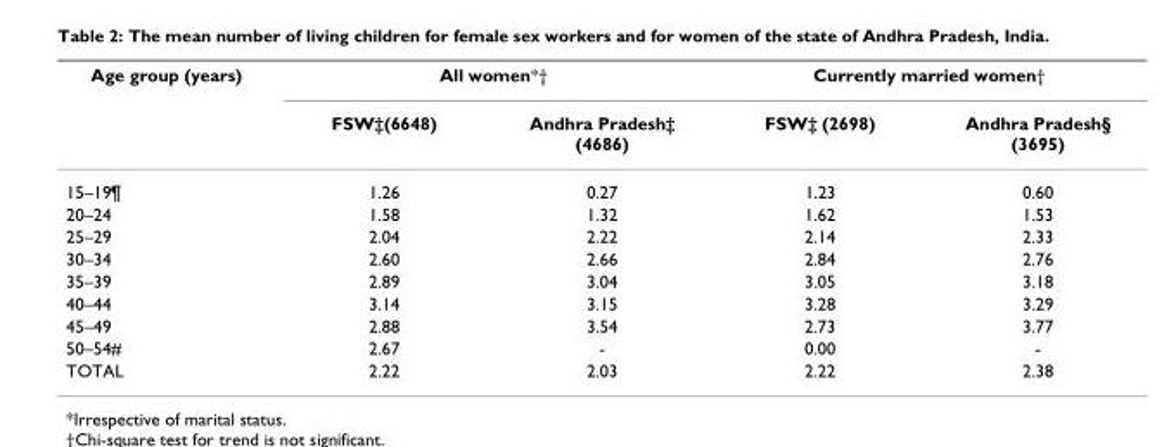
<table><thead><tr><td rowspan="2">Age group (years)</td><td colspan="2">All women*†</td><td colspan="2">Currently married women†</td></tr><tr><td>FSW‡(6648)</td><td>Andhra Pradesh‡ (4686)</td><td>FSW‡ (2698)</td><td>Andhra Pradesh§ (3695)</td></tr></thead><tbody><tr><td>15–19¶</td><td>1.26</td><td>0.27</td><td>1.23</td><td>0.60</td></tr><tr><td>20–24</td><td>1.58</td><td>1.32</td><td>1.62</td><td>1.53</td></tr><tr><td>25–29</td><td>2.04</td><td>2.22</td><td>2.14</td><td>2.33</td></tr><tr><td>30–34</td><td>2.60</td><td>2.66</td><td>2.84</td><td>2.76</td></tr><tr><td>35–39</td><td>2.89</td><td>3.04</td><td>3.05</td><td>3.18</td></tr><tr><td>40–44</td><td>3.14</td><td>3.15</td><td>3.28</td><td>3.29</td></tr><tr><td>45–49</td><td>2.88</td><td>3.54</td><td>2.73</td><td>3.77</td></tr><tr><td>50–54#</td><td>2.67</td><td>-</td><td>0.00</td><td>-</td></tr><tr><td>TOTAL</td><td>2.22</td><td>2.03</td><td>2.22</td><td>2.38</td></tr></tbody></table>